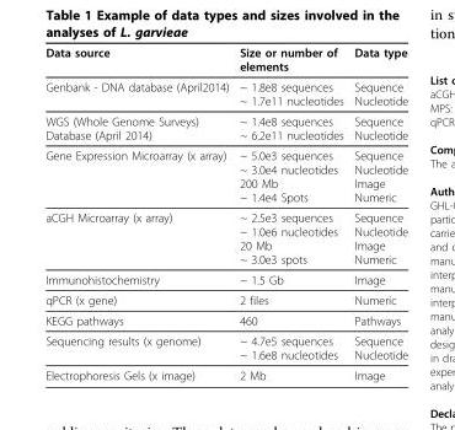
<table><thead><tr><td>Data source</td><td>Size or number of elements</td><td>Data type</td></tr></thead><tbody><tr><td>Genbank - DNA database (April2014)</td><td>~ 1.8e8 sequences ~ 1.7e11 nucleotides</td><td>Sequence Nucleotide</td></tr><tr><td>WGS (Whole Genome Surveys) Database (April 2014)</td><td>~ 1.4e8 sequences ~ 6.2e11 nucleotides</td><td>Sequence Nucleotide</td></tr><tr><td>Gene Expression Microarray (x array)</td><td>~ 5.0e3 sequences ~ 3.0e4 nucleotides 200 Mb ~ 1.4e4 Spots</td><td>Sequence Nucleotide Image Numeric</td></tr><tr><td>aCGH Microarray (x array)</td><td>~ 2.5e3 sequences ~ 1.0e6 nucleotides 20 Mb ~ 3.0e3 spots</td><td>Sequence Nucleotide Image Numeric</td></tr><tr><td>Immunohistochemistry</td><td>~ 1.5 Gb</td><td>Image</td></tr><tr><td>qPCR (x gene)</td><td>2 files</td><td>Numeric</td></tr><tr><td>KEGG pathways</td><td>460</td><td>Pathways</td></tr><tr><td>Sequencing results (x genome)</td><td>~ 4.7e5 sequences ~ 1.6e8 nucleotides</td><td>Sequence Nucleotide</td></tr><tr><td>Electrophoresis Gels (x image)</td><td>2 Mb</td><td>Image</td></tr></tbody></table>